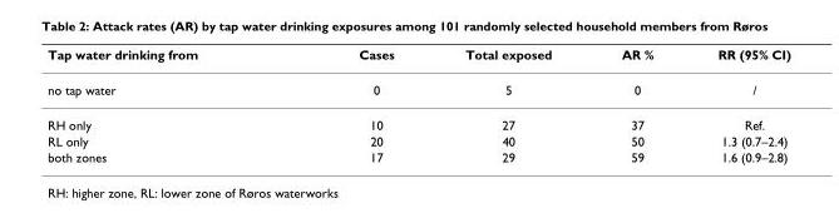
<table><thead><tr><td>Tap water drinking from</td><td>Cases</td><td>Total exposed</td><td>AR %</td><td>RR (95% CI)</td></tr></thead><tbody><tr><td>no tap water</td><td>0</td><td>5</td><td>0</td><td>/</td></tr><tr><td>RH only</td><td>10</td><td>27</td><td>37</td><td>Ref.</td></tr><tr><td>RL only</td><td>20</td><td>40</td><td>50</td><td>1.3 (0.7–2.4)</td></tr><tr><td>both zones</td><td>17</td><td>29</td><td>59</td><td>1.6 (0.9–2.8)</td></tr></tbody></table>